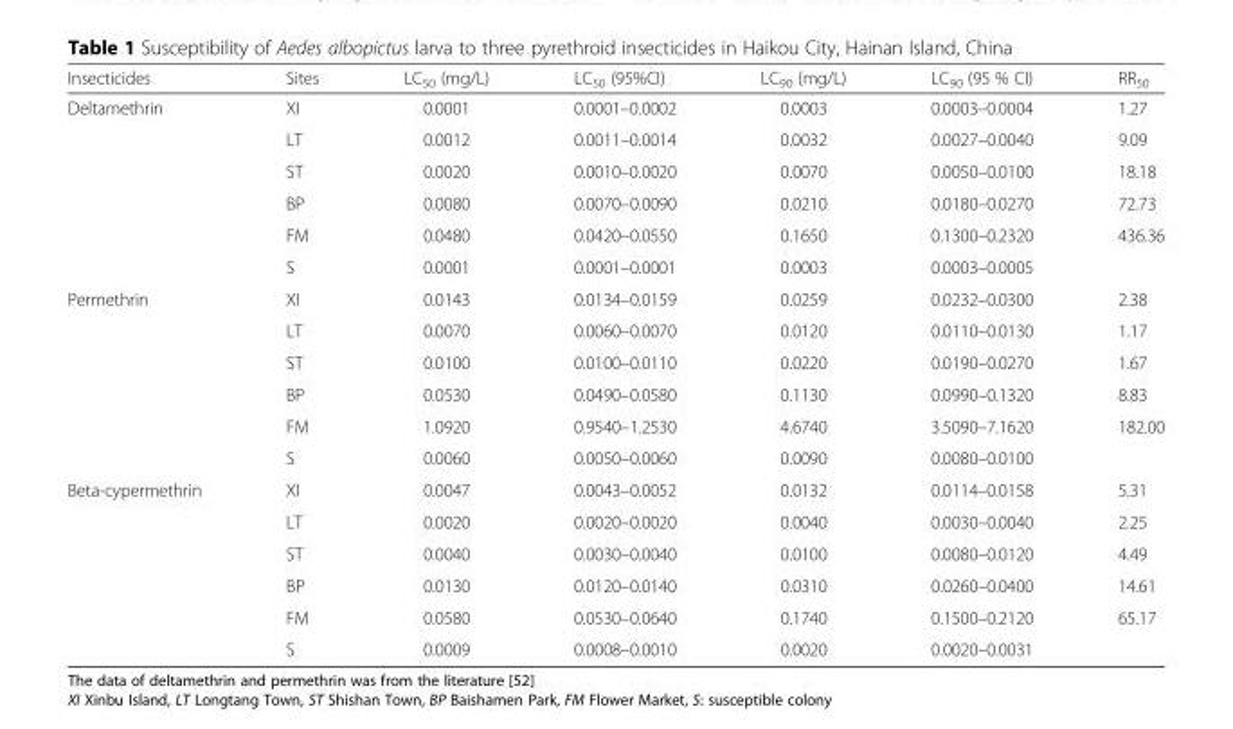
<table><thead><tr><td>Insecticides</td><td>Sites</td><td>LC<sub>50</sub> (mg/L)</td><td>LC<sub>50</sub> (95%CI)</td><td>LC<sub>90</sub> (mg/L)</td><td>LC<sub>90</sub> (95 % CI)</td><td>RR<sub>50</sub></td></tr></thead><tbody><tr><td rowspan="6">Deltamethrin</td><td>XI</td><td>0.0001</td><td>0.0001–0.0002</td><td>0.0003</td><td>0.0003–0.0004</td><td>1.27</td></tr><tr><td>LT</td><td>0.0012</td><td>0.0011–0.0014</td><td>0.0032</td><td>0.0027–0.0040</td><td>9.09</td></tr><tr><td>ST</td><td>0.0020</td><td>0.0010–0.0020</td><td>0.0070</td><td>0.0050–0.0100</td><td>18.18</td></tr><tr><td>BP</td><td>0.0080</td><td>0.0070–0.0090</td><td>0.0210</td><td>0.0180–0.0270</td><td>72.73</td></tr><tr><td>FM</td><td>0.0480</td><td>0.0420–0.0550</td><td>0.1650</td><td>0.1300–0.2320</td><td>436.36</td></tr><tr><td>S</td><td>0.0001</td><td>0.0001–0.0001</td><td>0.0003</td><td>0.0003–0.0005</td><td></td></tr><tr><td rowspan="6">Permethrin</td><td>XI</td><td>0.0143</td><td>0.0134–0.0159</td><td>0.0259</td><td>0.0232–0.0300</td><td>2.38</td></tr><tr><td>LT</td><td>0.0070</td><td>0.0060–0.0070</td><td>0.0120</td><td>0.0110–0.0130</td><td>1.17</td></tr><tr><td>ST</td><td>0.0100</td><td>0.0100–0.0110</td><td>0.0220</td><td>0.0190–0.0270</td><td>1.67</td></tr><tr><td>BP</td><td>0.0530</td><td>0.0490–0.0580</td><td>0.1130</td><td>0.0990–0.1320</td><td>8.83</td></tr><tr><td>FM</td><td>1.0920</td><td>0.9540–1.2530</td><td>4.6740</td><td>3.5090–7.1620</td><td>182.00</td></tr><tr><td>S</td><td>0.0060</td><td>0.0050–0.0060</td><td>0.0090</td><td>0.0080–0.0100</td><td></td></tr><tr><td rowspan="6">Beta-cypermethrin</td><td>XI</td><td>0.0047</td><td>0.0043–0.0052</td><td>0.0132</td><td>0.0114–0.0158</td><td>5.31</td></tr><tr><td>LT</td><td>0.0020</td><td>0.0020–0.0020</td><td>0.0040</td><td>0.0030–0.0040</td><td>2.25</td></tr><tr><td>ST</td><td>0.0040</td><td>0.0030–0.0040</td><td>0.0100</td><td>0.0080–0.0120</td><td>4.49</td></tr><tr><td>BP</td><td>0.0130</td><td>0.0120–0.0140</td><td>0.0310</td><td>0.0260–0.0400</td><td>14.61</td></tr><tr><td>FM</td><td>0.0580</td><td>0.0530–0.0640</td><td>0.1740</td><td>0.1500–0.2120</td><td>65.17</td></tr><tr><td>S</td><td>0.0009</td><td>0.0008–0.0010</td><td>0.0020</td><td>0.0020–0.0031</td><td></td></tr></tbody></table>